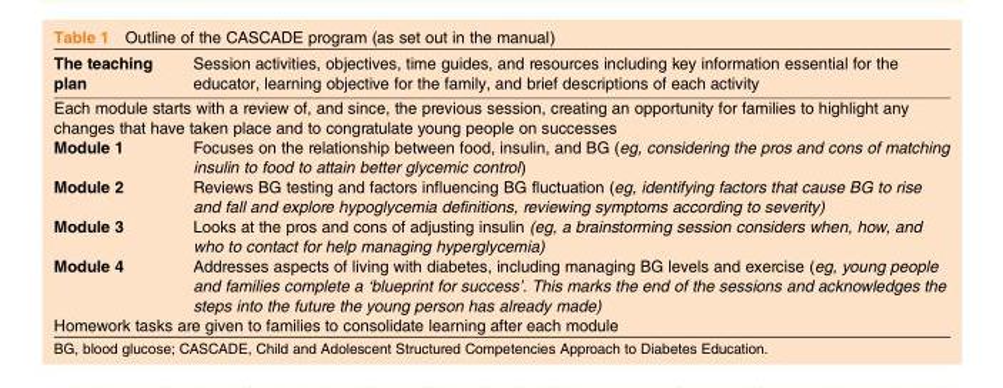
<table><tbody><tr><td>The teaching plan</td><td>Session activities, objectives, time guides, and resources including key information essential for the educator, learning objective for the family, and brief descriptions of each activity</td></tr><tr><td colspan="2">Each module starts with a review of, and since, the previous session, creating an opportunity for families to highlight any changes that have taken place and to congratulate young people on successes</td></tr><tr><td>Module 1</td><td>Focuses on the relationship between food, insulin, and BG (eg, considering the pros and cons of matching insulin to food to attain better glycemic control)</td></tr><tr><td>Module 2</td><td>Reviews BG testing and factors influencing BG fluctuation (eg, identifying factors that cause BG to rise and fall and explore hypoglycemia definitions, reviewing symptoms according to severity)</td></tr><tr><td>Module 3</td><td>Looks at the pros and cons of adjusting insulin (eg, a brainstorming session considers when, how, and who to contact for help managing hyperglycemia)</td></tr><tr><td>Module 4</td><td>Addresses aspects of living with diabetes, including managing BG levels and exercise (eg, young people and families complete a ‘blueprint for success’. This marks the end of the sessions and acknowledges the steps into the future the young person has already made)</td></tr><tr><td colspan="2">Homework tasks are given to families to consolidate learning after each module</td></tr></tbody></table>